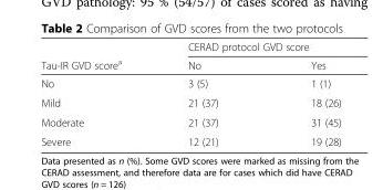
<table><thead><tr><td rowspan="2">Tau-IR GVD score<sup>a</sup></td><td colspan="2">CERAD protocol GVD score</td></tr><tr><td>No</td><td>Yes</td></tr></thead><tbody><tr><td>No</td><td>3 (5)</td><td>1 (1)</td></tr><tr><td>Mild</td><td>21 (37)</td><td>18 (26)</td></tr><tr><td>Moderate</td><td>21 (37)</td><td>31 (45)</td></tr><tr><td>Severe</td><td>12 (21)</td><td>19 (28)</td></tr></tbody></table>